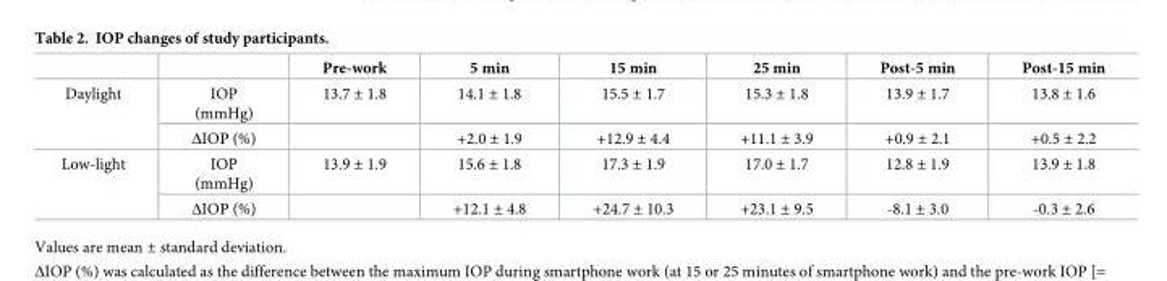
<table><thead><tr><td></td><td></td><td>Pre-work</td><td>5 min</td><td>15 min</td><td>25 min</td><td>Post-5 min</td><td>Post-15 min</td></tr></thead><tbody><tr><td rowspan="2">Daylight</td><td>IOP (mmHg)</td><td>13.7 ± 1.8</td><td>14.1 ± 1.8</td><td>15.5 ± 1.7</td><td>15.3 ± 1.8</td><td>13.9 ± 1.7</td><td>13.8 ± 1.6</td></tr><tr><td>ΔIOP (%)</td><td></td><td>+2.0 ± 1.9</td><td>+12.9 ± 4.4</td><td>+11.1 ± 3.9</td><td>+0.9 ± 2.1</td><td>+0.5 ± 2.2</td></tr><tr><td rowspan="2">Low-light</td><td>IOP (mmHg)</td><td>13.9 ± 1.9</td><td>15.6 ± 1.8</td><td>17.3 ± 1.9</td><td>17.0 ± 1.7</td><td>12.8 ± 1.9</td><td>13.9 ± 1.8</td></tr><tr><td>ΔIOP (%)</td><td></td><td>+12.1 ± 4.8</td><td>+24.7 ± 10.3</td><td>+23.1 ± 9.5</td><td>-8.1 ± 3.0</td><td>-0.3 ± 2.6</td></tr></tbody></table>